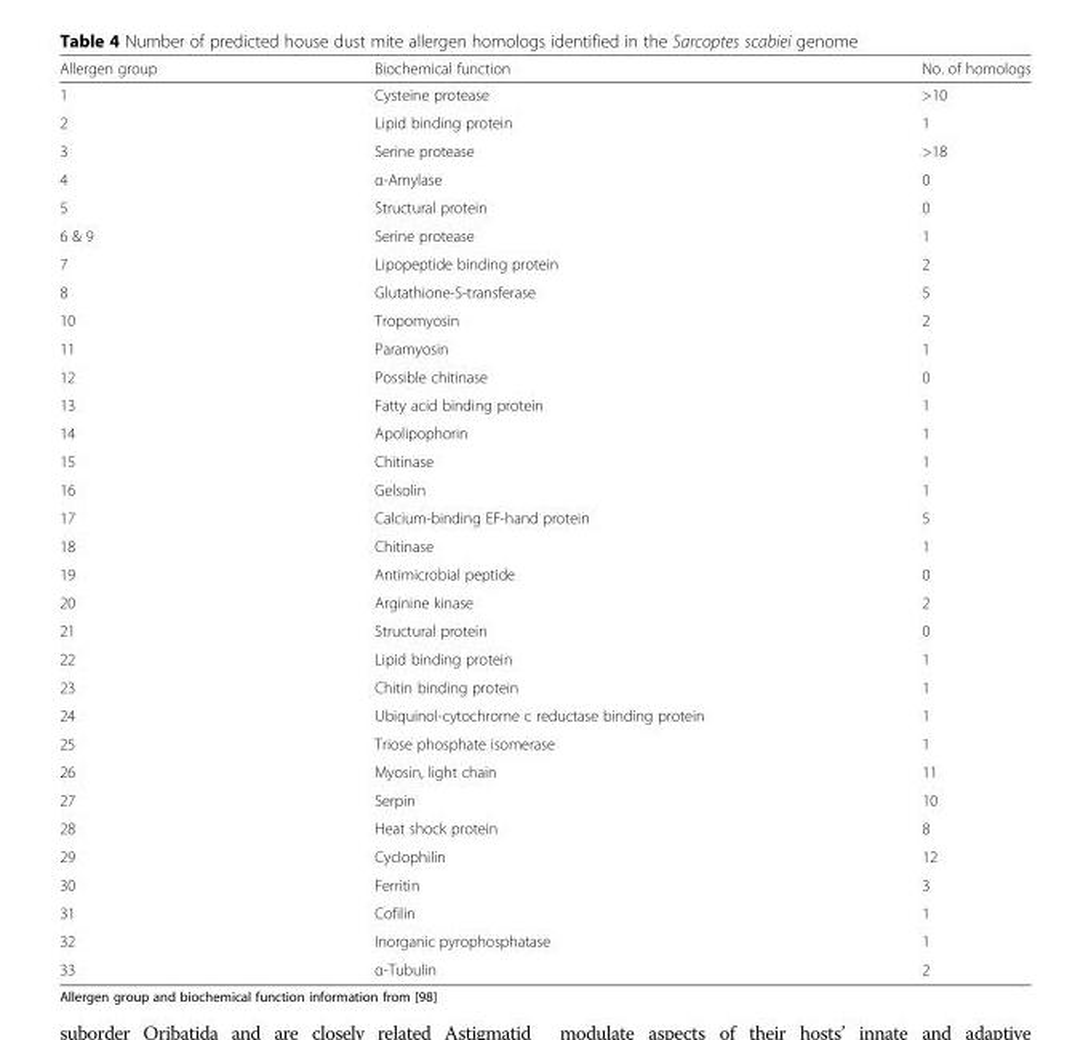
<table><thead><tr><td>Allergen group</td><td>Biochemical function</td><td>No. of homologs</td></tr></thead><tbody><tr><td>1</td><td>Cysteine protease</td><td>&gt;10</td></tr><tr><td>2</td><td>Lipid binding protein</td><td>1</td></tr><tr><td>3</td><td>Serine protease</td><td>&gt;18</td></tr><tr><td>4</td><td>α-Amylase</td><td>0</td></tr><tr><td>5</td><td>Structural protein</td><td>0</td></tr><tr><td>6 &amp; 9</td><td>Serine protease</td><td>1</td></tr><tr><td>7</td><td>Lipopeptide binding protein</td><td>2</td></tr><tr><td>8</td><td>Glutathione-S-transferase</td><td>5</td></tr><tr><td>10</td><td>Tropomyosin</td><td>2</td></tr><tr><td>11</td><td>Paramyosin</td><td>1</td></tr><tr><td>12</td><td>Possible chitinase</td><td>0</td></tr><tr><td>13</td><td>Fatty acid binding protein</td><td>1</td></tr><tr><td>14</td><td>Apolipophorin</td><td>1</td></tr><tr><td>15</td><td>Chitinase</td><td>1</td></tr><tr><td>16</td><td>Gelsolin</td><td>1</td></tr><tr><td>17</td><td>Calcium-binding EF-hand protein</td><td>5</td></tr><tr><td>18</td><td>Chitinase</td><td>1</td></tr><tr><td>19</td><td>Antimicrobial peptide</td><td>0</td></tr><tr><td>20</td><td>Arginine kinase</td><td>2</td></tr><tr><td>21</td><td>Structural protein</td><td>0</td></tr><tr><td>22</td><td>Lipid binding protein</td><td>1</td></tr><tr><td>23</td><td>Chitin binding protein</td><td>1</td></tr><tr><td>24</td><td>Ubiquinol-cytochrome c reductase binding protein</td><td>1</td></tr><tr><td>25</td><td>Triose phosphate isomerase</td><td>1</td></tr><tr><td>26</td><td>Myosin, light chain</td><td>11</td></tr><tr><td>27</td><td>Serpin</td><td>10</td></tr><tr><td>28</td><td>Heat shock protein</td><td>8</td></tr><tr><td>29</td><td>Cyclophilin</td><td>12</td></tr><tr><td>30</td><td>Ferritin</td><td>3</td></tr><tr><td>31</td><td>Cofilin</td><td>1</td></tr><tr><td>32</td><td>Inorganic pyrophosphatase</td><td>1</td></tr><tr><td>33</td><td>α-Tubulin</td><td>2</td></tr></tbody></table>